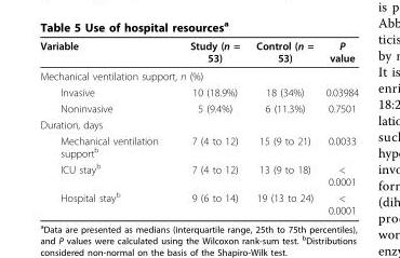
<table><thead><tr><td>Variable</td><td>Study (n = 53)</td><td>Control (n = 53)</td><td>P value</td></tr></thead><tbody><tr><td colspan="4">Mechanical ventilation support, n (%)</td></tr><tr><td>Invasive</td><td>10 (18.9%)</td><td>18 (34%)</td><td>0.03984</td></tr><tr><td>Noninvasive</td><td>5 (9.4%)</td><td>6 (11.3%)</td><td>0.7501</td></tr><tr><td colspan="4">Duration, days</td></tr><tr><td>Mechanical ventilation support<sup>b</sup></td><td>7 (4 to 12)</td><td>15 (9 to 21)</td><td>0.0033</td></tr><tr><td>ICU stay<sup>b</sup></td><td>7 (4 to 12)</td><td>13 (9 to 18)</td><td>&lt; 0.0001</td></tr><tr><td>Hospital stay<sup>b</sup></td><td>9 (6 to 14)</td><td>19 (13 to 24)</td><td>&lt; 0.0001</td></tr></tbody></table>